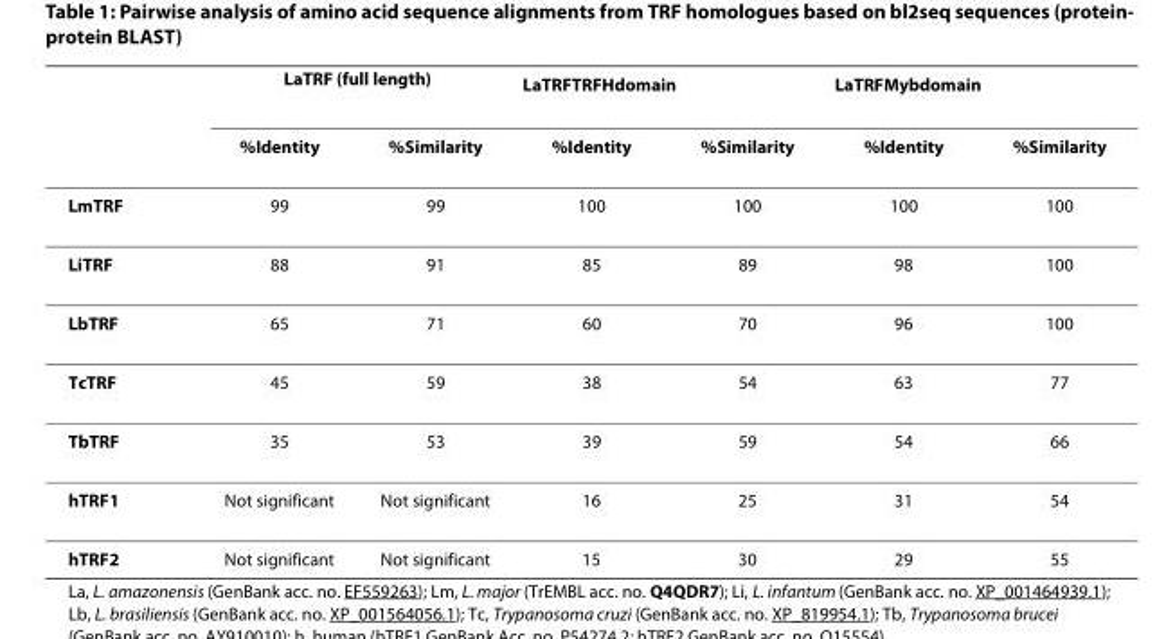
<table><thead><tr><td rowspan="2"></td><td colspan="2">LaTRF (full length)</td><td colspan="2">LaTRF<sup>TRFHdomain</sup></td><td colspan="2">LaTRF<sup>Mybdomain</sup></td></tr><tr><td>%Identity</td><td>%Similarity</td><td>%Identity</td><td>%Similarity</td><td>%Identity</td><td>%Similarity</td></tr></thead><tbody><tr><td>LmTRF</td><td>99</td><td>99</td><td>100</td><td>100</td><td>100</td><td>100</td></tr><tr><td>LiTRF</td><td>88</td><td>91</td><td>85</td><td>89</td><td>98</td><td>100</td></tr><tr><td>LbTRF</td><td>65</td><td>71</td><td>60</td><td>70</td><td>96</td><td>100</td></tr><tr><td>TcTRF</td><td>45</td><td>59</td><td>38</td><td>54</td><td>63</td><td>77</td></tr><tr><td>TbTRF</td><td>35</td><td>53</td><td>39</td><td>59</td><td>54</td><td>66</td></tr><tr><td>hTRF1</td><td>Not significant</td><td>Not significant</td><td>16</td><td>25</td><td>31</td><td>54</td></tr><tr><td>hTRF2</td><td>Not significant</td><td>Not significant</td><td>15</td><td>30</td><td>29</td><td>55</td></tr></tbody></table>